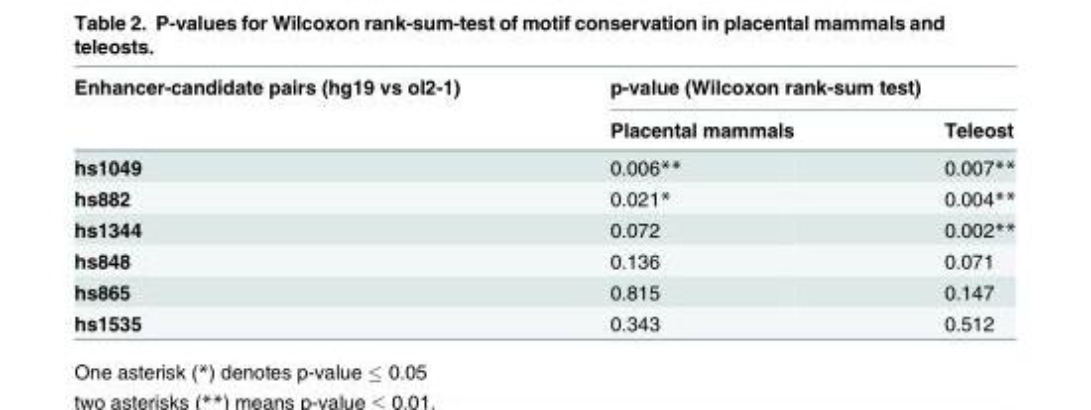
<table><thead><tr><td rowspan="2">Enhancer-candidate pairs (hg19 vs ol2-1)</td><td colspan="2">p-value (Wilcoxon rank-sum test)</td></tr><tr><td>Placental mammals</td><td>Teleost</td></tr></thead><tbody><tr><td>hs1049</td><td>0.006**</td><td>0.007**</td></tr><tr><td>hs882</td><td>0.021*</td><td>0.004**</td></tr><tr><td>hs1344</td><td>0.072</td><td>0.002**</td></tr><tr><td>hs848</td><td>0.136</td><td>0.071</td></tr><tr><td>hs865</td><td>0.815</td><td>0.147</td></tr><tr><td>hs1535</td><td>0.343</td><td>0.512</td></tr></tbody></table>